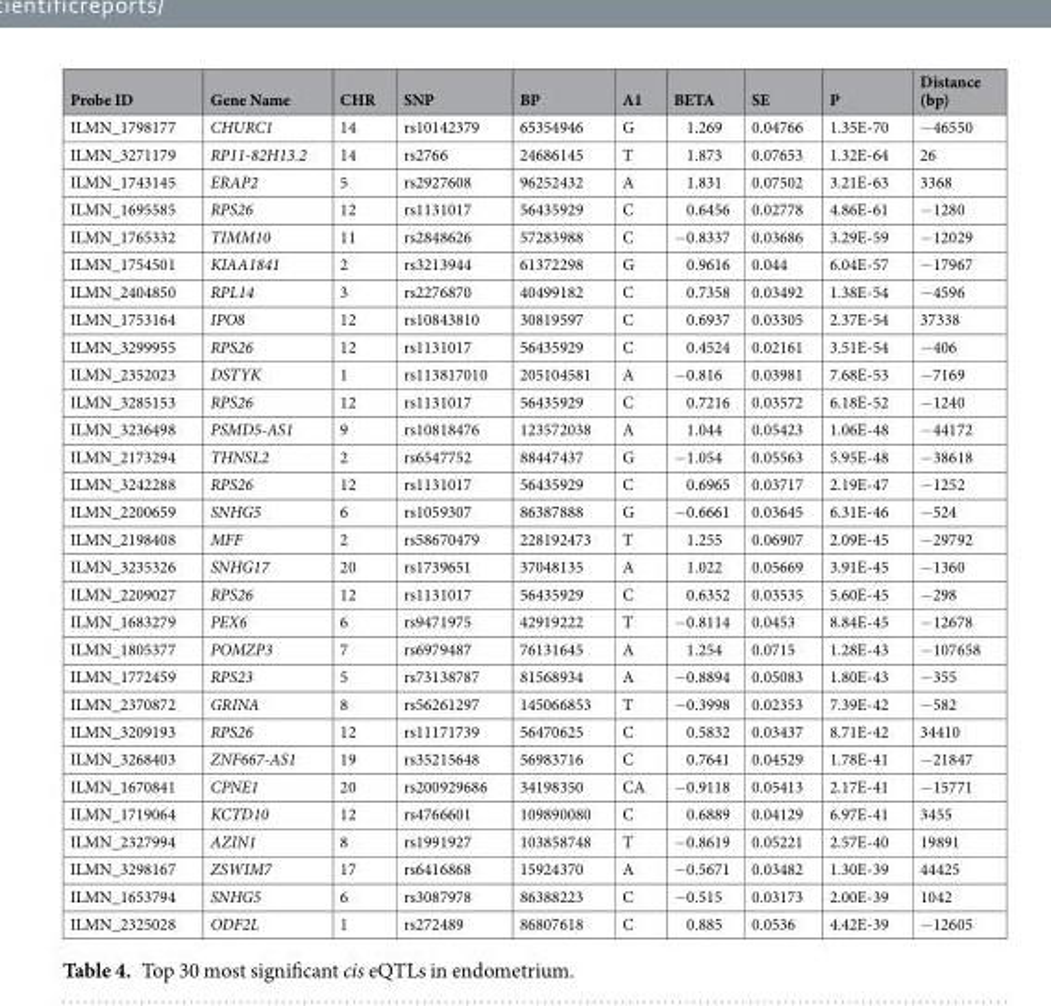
<table><thead><tr><td>Probe ID</td><td>Gene Name</td><td>CHR</td><td>SNP</td><td>BP</td><td>A1</td><td>BETA</td><td>SE</td><td>P</td><td>Distance (bp)</td></tr></thead><tbody><tr><td>ILMN_1798177</td><td>CHURC1</td><td>14</td><td>rs10142379</td><td>65354946</td><td>G</td><td>1.269</td><td>0.04766</td><td>1.35E-70</td><td>−46550</td></tr><tr><td>ILMN_3271179</td><td>RP11-82H13.2</td><td>14</td><td>rs2766</td><td>24686145</td><td>T</td><td>1.873</td><td>0.07653</td><td>1.32E-64</td><td>26</td></tr><tr><td>ILMN_1743145</td><td>ERAP2</td><td>5</td><td>rs2927608</td><td>96252432</td><td>A</td><td>1.831</td><td>0.07502</td><td>3.21E-63</td><td>3368</td></tr><tr><td>ILMN_1695585</td><td>RPS26</td><td>12</td><td>rs1131017</td><td>56435929</td><td>C</td><td>0.6456</td><td>0.02778</td><td>4.86E-61</td><td>−1280</td></tr><tr><td>ILMN_1765332</td><td>TIMM10</td><td>11</td><td>rs2848626</td><td>57283988</td><td>C</td><td>−0.8337</td><td>0.03686</td><td>3.29E-59</td><td>−12029</td></tr><tr><td>ILMN_1754501</td><td>KIAA1841</td><td>2</td><td>rs3213944</td><td>61372298</td><td>G</td><td>0.9616</td><td>0.044</td><td>6.04E-57</td><td>−17967</td></tr><tr><td>ILMN_2404850</td><td>RPL14</td><td>3</td><td>rs2276870</td><td>40499182</td><td>C</td><td>0.7358</td><td>0.03492</td><td>1.38E-54</td><td>−4596</td></tr><tr><td>ILMN_1753164</td><td>IPO8</td><td>12</td><td>rs10843810</td><td>30819597</td><td>C</td><td>0.6937</td><td>0.03305</td><td>2.37E-54</td><td>37338</td></tr><tr><td>ILMN_3299955</td><td>RPS26</td><td>12</td><td>rs1131017</td><td>56435929</td><td>C</td><td>0.4524</td><td>0.02161</td><td>3.51E-54</td><td>−406</td></tr><tr><td>ILMN_2352023</td><td>DSTYK</td><td>1</td><td>rs113817010</td><td>205104581</td><td>A</td><td>−0.816</td><td>0.03981</td><td>7.68E-53</td><td>−7169</td></tr><tr><td>ILMN_3285153</td><td>RPS26</td><td>12</td><td>rs1131017</td><td>56435929</td><td>C</td><td>0.7216</td><td>0.03572</td><td>6.18E-52</td><td>−1240</td></tr><tr><td>ILMN_3236498</td><td>PSMD5-AS1</td><td>9</td><td>rs10818476</td><td>123572038</td><td>A</td><td>1.044</td><td>0.05423</td><td>1.06E-48</td><td>−44172</td></tr><tr><td>ILMN_2173294</td><td>THNSL2</td><td>2</td><td>rs6547752</td><td>88447437</td><td>G</td><td>−1.054</td><td>0.05563</td><td>5.95E-48</td><td>−38618</td></tr><tr><td>ILMN_3242288</td><td>RPS26</td><td>12</td><td>rs1131017</td><td>56435929</td><td>C</td><td>0.6965</td><td>0.03717</td><td>2.19E-47</td><td>−1252</td></tr><tr><td>ILMN_2200659</td><td>SNHG5</td><td>6</td><td>rs1059307</td><td>86387888</td><td>G</td><td>−0.6661</td><td>0.03645</td><td>6.31E-46</td><td>−524</td></tr><tr><td>ILMN_2198408</td><td>MFF</td><td>2</td><td>rs58670479</td><td>228192473</td><td>T</td><td>1.255</td><td>0.06907</td><td>2.09E-45</td><td>−29792</td></tr><tr><td>ILMN_3235326</td><td>SNHG17</td><td>20</td><td>rs1739651</td><td>37048135</td><td>A</td><td>1.022</td><td>0.05669</td><td>3.91E-45</td><td>−1360</td></tr><tr><td>ILMN_2209027</td><td>RPS26</td><td>12</td><td>rs1131017</td><td>56435929</td><td>C</td><td>0.6352</td><td>0.03535</td><td>5.60E-45</td><td>−298</td></tr><tr><td>ILMN_1683279</td><td>PEX6</td><td>6</td><td>rs9471975</td><td>42919222</td><td>T</td><td>−0.8114</td><td>0.0453</td><td>8.84E-45</td><td>−12678</td></tr><tr><td>ILMN_1805377</td><td>POMZP3</td><td>7</td><td>rs6979487</td><td>76131645</td><td>A</td><td>1.254</td><td>0.0715</td><td>1.28E-43</td><td>−107658</td></tr><tr><td>ILMN_1772459</td><td>RPS23</td><td>5</td><td>rs73138787</td><td>81568934</td><td>A</td><td>−0.8894</td><td>0.05083</td><td>1.80E-43</td><td>−355</td></tr><tr><td>ILMN_2370872</td><td>GRINA</td><td>8</td><td>rs56261297</td><td>145066853</td><td>T</td><td>−0.3998</td><td>0.02353</td><td>7.39E-42</td><td>−582</td></tr><tr><td>ILMN_3209193</td><td>RPS26</td><td>12</td><td>rs11171739</td><td>56470625</td><td>C</td><td>0.5832</td><td>0.03437</td><td>8.71E-42</td><td>34410</td></tr><tr><td>ILMN_3268403</td><td>ZNF667-AS1</td><td>19</td><td>rs35215648</td><td>56983716</td><td>C</td><td>0.7641</td><td>0.04529</td><td>1.78E-41</td><td>−21847</td></tr><tr><td>ILMN_1670841</td><td>CPNE1</td><td>20</td><td>rs200929686</td><td>34198350</td><td>CA</td><td>−0.9118</td><td>0.05413</td><td>2.17E-41</td><td>−15771</td></tr><tr><td>ILMN_1719064</td><td>KCTD10</td><td>12</td><td>rs4766601</td><td>109890080</td><td>C</td><td>0.6889</td><td>0.04129</td><td>6.97E-41</td><td>3455</td></tr><tr><td>ILMN_2327994</td><td>AZIN1</td><td>8</td><td>rs1991927</td><td>103858748</td><td>T</td><td>−0.8619</td><td>0.05221</td><td>2.57E-40</td><td>19891</td></tr><tr><td>ILMN_3298167</td><td>ZSWIM7</td><td>17</td><td>rs6416868</td><td>15924370</td><td>A</td><td>−0.5671</td><td>0.03482</td><td>1.30E-39</td><td>44425</td></tr><tr><td>ILMN_1653794</td><td>SNHG5</td><td>6</td><td>rs3087978</td><td>86388223</td><td>C</td><td>−0.515</td><td>0.03173</td><td>2.00E-39</td><td>1042</td></tr><tr><td>ILMN_2325028</td><td>ODF2L</td><td>1</td><td>rs272489</td><td>86807618</td><td>C</td><td>0.885</td><td>0.0536</td><td>4.42E-39</td><td>−12605</td></tr></tbody></table>